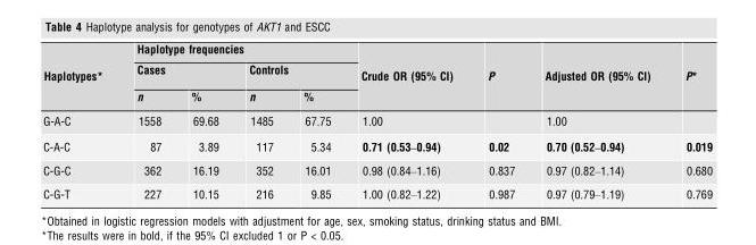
<table><thead><tr><td rowspan="3">Haplotypes*</td><td colspan="4">Haplotype frequencies</td><td rowspan="3">Crude OR (95% CI)</td><td rowspan="3">P</td><td rowspan="3">Adjusted OR (95% CI)</td><td rowspan="3">P*</td></tr><tr><td colspan="2">Cases</td><td colspan="2">Controls</td></tr><tr><td>n</td><td>%</td><td>n</td><td>%</td></tr></thead><tbody><tr><td>G-A-C</td><td>1558</td><td>69.68</td><td>1485</td><td>67.75</td><td>1.00</td><td></td><td>1.00</td><td></td></tr><tr><td>C-A-C</td><td>87</td><td>3.89</td><td>117</td><td>5.34</td><td>0.71 (0.53–0.94)</td><td>0.02</td><td>0.70 (0.52–0.94)</td><td>0.019</td></tr><tr><td>C-G-C</td><td>362</td><td>16.19</td><td>352</td><td>16.01</td><td>0.98 (0.84–1.16)</td><td>0.837</td><td>0.97 (0.82–1.14)</td><td>0.680</td></tr><tr><td>C-G-T</td><td>227</td><td>10.15</td><td>216</td><td>9.85</td><td>1.00 (0.82–1.22)</td><td>0.987</td><td>0.97 (0.79–1.19)</td><td>0.769</td></tr></tbody></table>